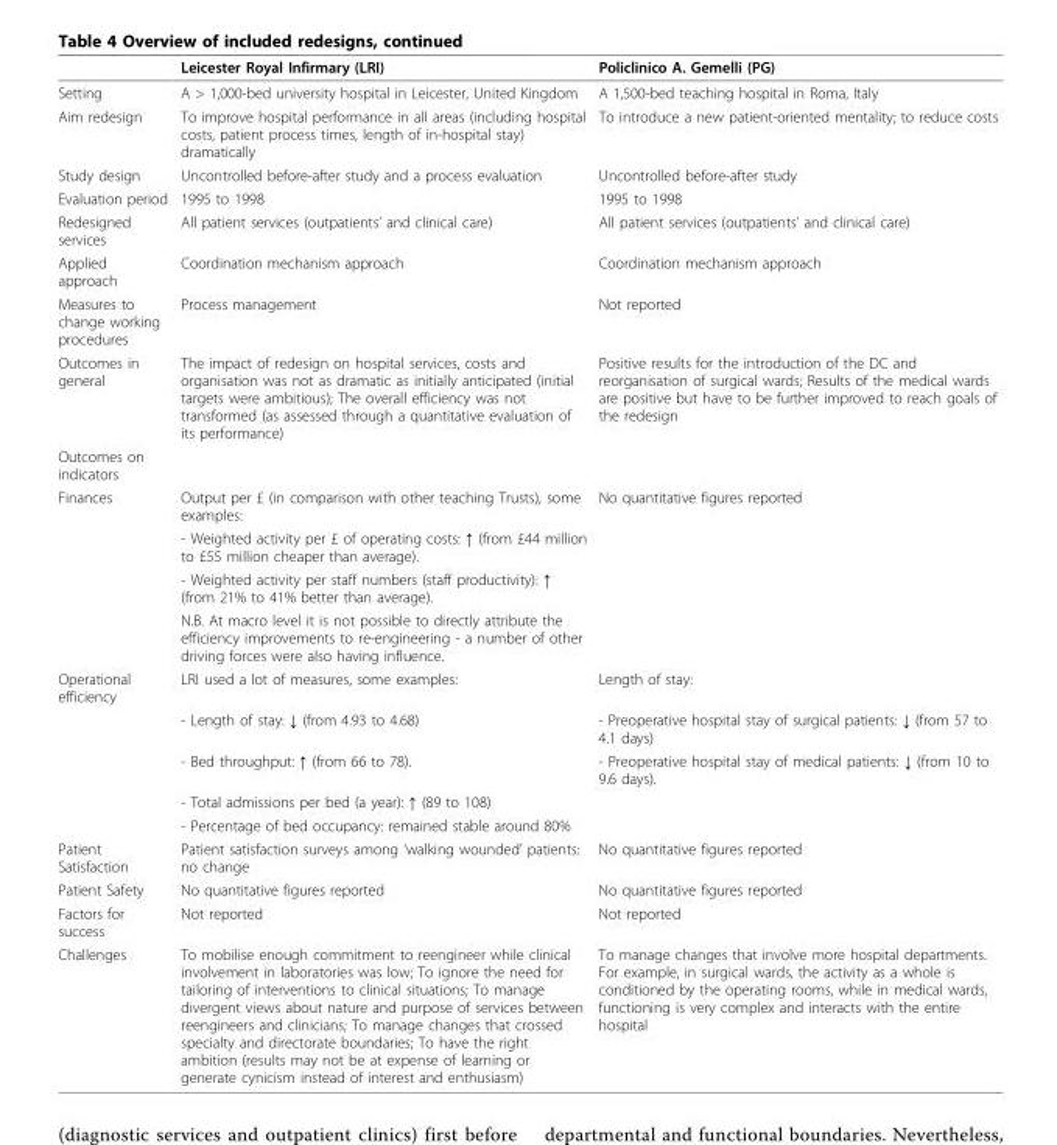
<table><thead><tr><td></td><td>Leicester Royal Infirmary (LRI)</td><td>Policlinico A. Gemelli (PG)</td></tr></thead><tbody><tr><td>Setting</td><td>A &gt; 1,000-bed university hospital in Leicester, United Kingdom</td><td>A 1,500-bed teaching hospital in Roma, Italy</td></tr><tr><td>Aim redesign</td><td>To improve hospital performance in all areas (including hospital costs, patient process times, length of in-hospital stay) dramatically</td><td>To introduce a new patient-oriented mentality; to reduce costs</td></tr><tr><td>Study design</td><td>Uncontrolled before-after study and a process evaluation</td><td>Uncontrolled before-after study</td></tr><tr><td>Evaluation period</td><td>1995 to 1998</td><td>1995 to 1998</td></tr><tr><td>Redesigned services</td><td>All patient services (outpatients’ and clinical care)</td><td>All patient services (outpatients’ and clinical care)</td></tr><tr><td>Applied approach</td><td>Coordination mechanism approach</td><td>Coordination mechanism approach</td></tr><tr><td>Measures to change working procedures</td><td>Process management</td><td>Not reported</td></tr><tr><td>Outcomes in general</td><td>The impact of redesign on hospital services, costs and organisation was not as dramatic as initially anticipated (initial targets were ambitious); The overall efficiency was not transformed (as assessed through a quantitative evaluation of its performance)</td><td>Positive results for the introduction of the DC and reorganisation of surgical wards; Results of the medical wards are positive but have to be further improved to reach goals of the redesign</td></tr><tr><td colspan="3">Outcomes on indicators</td></tr><tr><td rowspan="4">Finances</td><td>Output per £ (in comparison with other teaching Trusts), some examples:</td><td>No quantitative figures reported</td></tr><tr><td>- Weighted activity per £ of operating costs: ↑ (from £44 million to £55 million cheaper than average).</td><td></td></tr><tr><td>- Weighted activity per staff numbers (staff productivity): ↑ (from 21% to 41% better than average).</td><td></td></tr><tr><td>N.B. At macro level it is not possible to directly attribute the efficiency improvements to re-engineering - a number of other driving forces were also having influence.</td><td></td></tr><tr><td rowspan="5">Operational efficiency</td><td>LRI used a lot of measures, some examples:</td><td>Length of stay:</td></tr><tr><td>- Length of stay: ↓ (from 4.93 to 4.68)</td><td>- Preoperative hospital stay of surgical patients: ↓ (from 57 to 4.1 days)</td></tr><tr><td>- Bed throughput: ↑ (from 66 to 78).</td><td>- Preoperative hospital stay of medical patients: ↓ (from 10 to 9.6 days).</td></tr><tr><td>- Total admissions per bed (a year): ↑ (89 to 108)</td><td></td></tr><tr><td>- Percentage of bed occupancy: remained stable around 80%</td><td></td></tr><tr><td>Patient Satisfaction</td><td>Patient satisfaction surveys among ‘walking wounded’ patients: no change</td><td>No quantitative figures reported</td></tr><tr><td>Patient Safety</td><td>No quantitative figures reported</td><td>No quantitative figures reported</td></tr><tr><td>Factors for success</td><td>Not reported</td><td>Not reported</td></tr><tr><td>Challenges</td><td>To mobilise enough commitment to reengineer while clinical involvement in laboratories was low; To ignore the need for tailoring of interventions to clinical situations; To manage divergent views about nature and purpose of services between reengineers and clinicians; To manage changes that crossed specialty and directorate boundaries; To have the right ambition (results may not be at expense of learning or generate cynicism instead of interest and enthusiasm)</td><td>To manage changes that involve more hospital departments. For example, in surgical wards, the activity as a whole is conditioned by the operating rooms, while in medical wards, functioning is very complex and interacts with the entire hospital</td></tr></tbody></table>